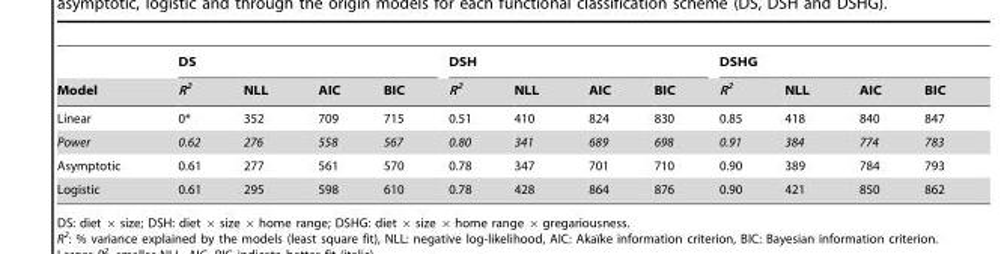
<table><thead><tr><td rowspan="2">Model</td><td colspan="4">DS</td><td colspan="4">DSH</td><td colspan="4">DSHG</td></tr><tr><td>R<sup>2</sup></td><td>NLL</td><td>AIC</td><td>BIC</td><td>R<sup>2</sup></td><td>NLL</td><td>AIC</td><td>BIC</td><td>R<sup>2</sup></td><td>NLL</td><td>AIC</td><td>BIC</td></tr></thead><tbody><tr><td>Linear</td><td>0*</td><td>352</td><td>709</td><td>715</td><td>0.51</td><td>410</td><td>824</td><td>830</td><td>0.85</td><td>418</td><td>840</td><td>847</td></tr><tr><td>Power</td><td>0.62</td><td>276</td><td>558</td><td>567</td><td>0.80</td><td>341</td><td>689</td><td>698</td><td>0.91</td><td>384</td><td>774</td><td>783</td></tr><tr><td>Asymptotic</td><td>0.61</td><td>277</td><td>561</td><td>570</td><td>0.78</td><td>347</td><td>701</td><td>710</td><td>0.90</td><td>389</td><td>784</td><td>793</td></tr><tr><td>Logistic</td><td>0.61</td><td>295</td><td>598</td><td>610</td><td>0.78</td><td>428</td><td>864</td><td>876</td><td>0.90</td><td>421</td><td>850</td><td>862</td></tr></tbody></table>